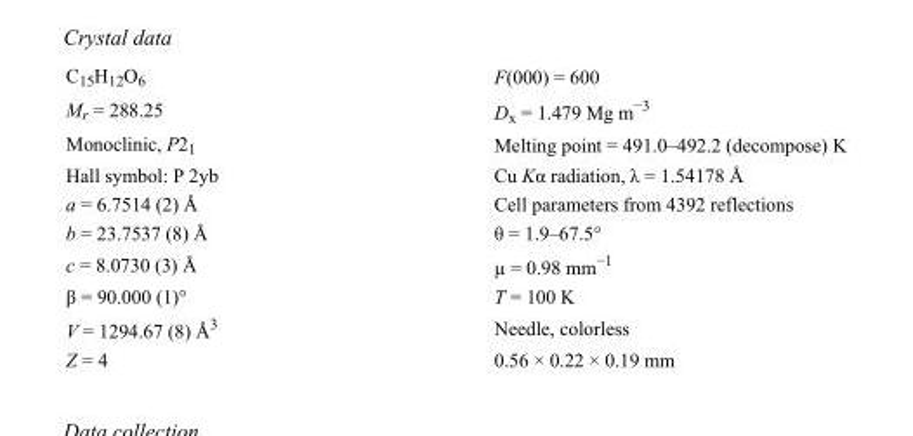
<table><tbody><tr><td>C<sub>15</sub>H<sub>12</sub>O<sub>6</sub></td><td>F(000) = 600</td></tr><tr><td>M<sub>r</sub> = 288.25</td><td>D<sub>x</sub> = 1.479 Mg m<sup>−3</sup></td></tr><tr><td>Monoclinic, P2<sub>1</sub></td><td>Melting point = 491.0–492.2 (decompose) K</td></tr><tr><td>Hall symbol: P 2yb</td><td>Cu Kα radiation, λ = 1.54178 Å</td></tr><tr><td>a = 6.7514 (2) Å</td><td>Cell parameters from 4392 reflections</td></tr><tr><td>b = 23.7537 (8) Å</td><td>θ = 1.9–67.5°</td></tr><tr><td>c = 8.0730 (3) Å</td><td>µ = 0.98 mm<sup>−1</sup></td></tr><tr><td>β = 90.000 (1)°</td><td>T = 100 K</td></tr><tr><td>V = 1294.67 (8) Å<sup>3</sup></td><td>Needle, colorless</td></tr><tr><td>Z = 4</td><td>0.56 × 0.22 × 0.19 mm</td></tr></tbody></table>